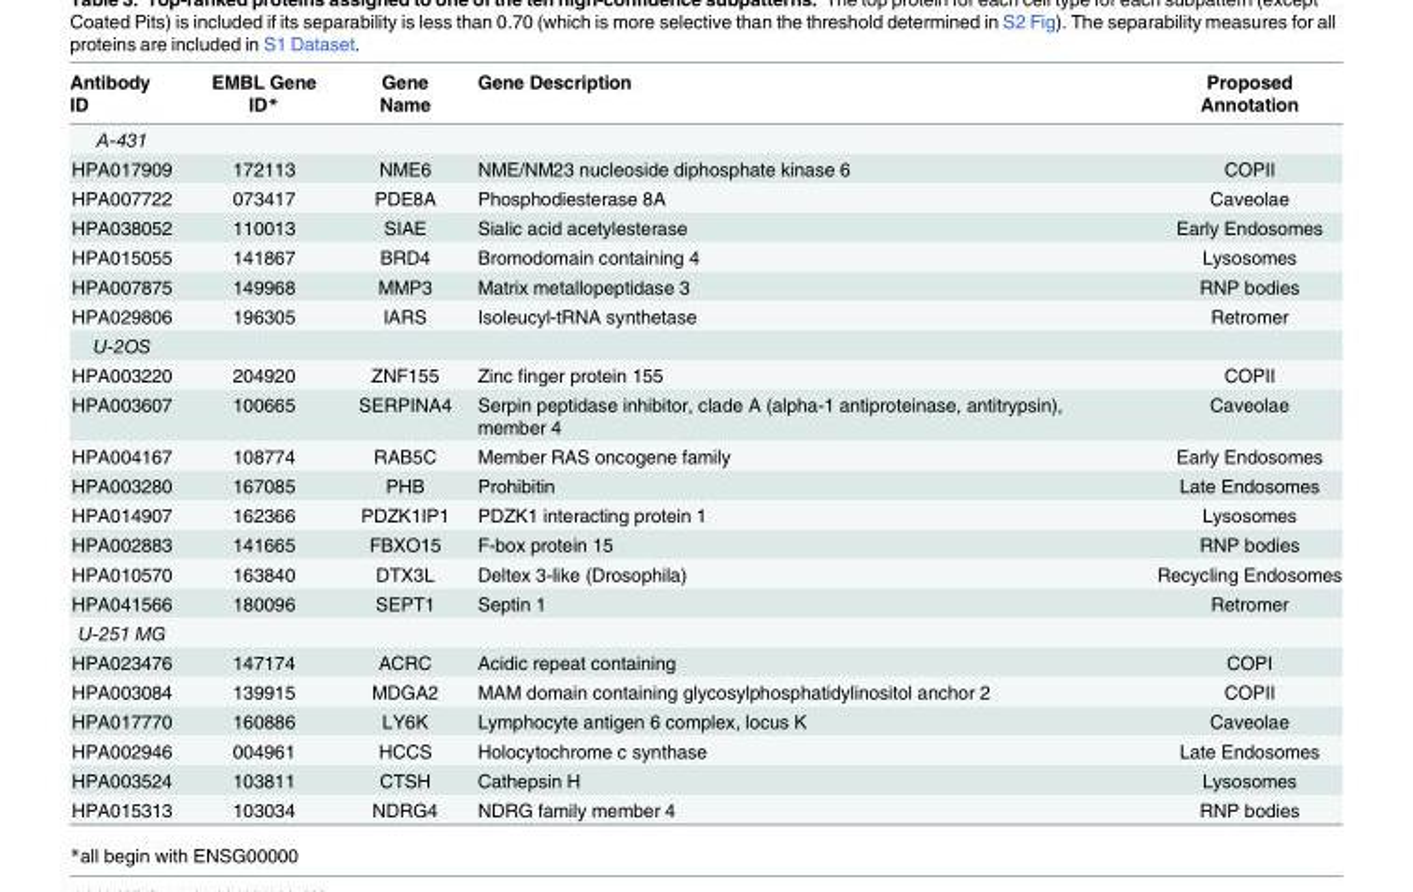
<table><thead><tr><td>Antibody ID</td><td>EMBL Gene ID*</td><td>Gene Name</td><td>Gene Description</td><td>Proposed Annotation</td></tr></thead><tbody><tr><td colspan="5">A-431</td></tr><tr><td>HPA017909</td><td>172113</td><td>NME6</td><td>NME/NM23 nucleoside diphosphate kinase 6</td><td>COPII</td></tr><tr><td>HPA007722</td><td>073417</td><td>PDE8A</td><td>Phosphodiesterase 8A</td><td>Caveolae</td></tr><tr><td>HPA038052</td><td>110013</td><td>SIAE</td><td>Sialic acid acetylesterase</td><td>Early Endosomes</td></tr><tr><td>HPA015055</td><td>141867</td><td>BRD4</td><td>Bromodomain containing 4</td><td>Lysosomes</td></tr><tr><td>HPA007875</td><td>149968</td><td>MMP3</td><td>Matrix metallopeptidase 3</td><td>RNP bodies</td></tr><tr><td>HPA029806</td><td>196305</td><td>IARS</td><td>Isoleucyl-tRNA synthetase</td><td>Retromer</td></tr><tr><td colspan="5">U-2OS</td></tr><tr><td>HPA003220</td><td>204920</td><td>ZNF155</td><td>Zinc finger protein 155</td><td>COPII</td></tr><tr><td>HPA003607</td><td>100665</td><td>SERPINA4</td><td>Serpin peptidase inhibitor, clade A (alpha-1 antiproteinase, antitrypsin), member 4</td><td>Caveolae</td></tr><tr><td>HPA004167</td><td>108774</td><td>RAB5C</td><td>Member RAS oncogene family</td><td>Early Endosomes</td></tr><tr><td>HPA003280</td><td>167085</td><td>PHB</td><td>Prohibitin</td><td>Late Endosomes</td></tr><tr><td>HPA014907</td><td>162366</td><td>PDZK1IP1</td><td>PDZK1 interacting protein 1</td><td>Lysosomes</td></tr><tr><td>HPA002883</td><td>141665</td><td>FBXO15</td><td>F-box protein 15</td><td>RNP bodies</td></tr><tr><td>HPA010570</td><td>163840</td><td>DTX3L</td><td>Deltex 3-like (Drosophila)</td><td>Recycling Endosomes</td></tr><tr><td>HPA041566</td><td>180096</td><td>SEPT1</td><td>Septin 1</td><td>Retromer</td></tr><tr><td colspan="5">U-251 MG</td></tr><tr><td>HPA023476</td><td>147174</td><td>ACRC</td><td>Acidic repeat containing</td><td>COPI</td></tr><tr><td>HPA003084</td><td>139915</td><td>MDGA2</td><td>MAM domain containing glycosylphosphatidylinositol anchor 2</td><td>COPII</td></tr><tr><td>HPA017770</td><td>160886</td><td>LY6K</td><td>Lymphocyte antigen 6 complex, locus K</td><td>Caveolae</td></tr><tr><td>HPA002946</td><td>004961</td><td>HCCS</td><td>Holocytochrome c synthase</td><td>Late Endosomes</td></tr><tr><td>HPA003524</td><td>103811</td><td>CTSH</td><td>Cathepsin H</td><td>Lysosomes</td></tr><tr><td>HPA015313</td><td>103034</td><td>NDRG4</td><td>NDRG family member 4</td><td>RNP bodies</td></tr></tbody></table>